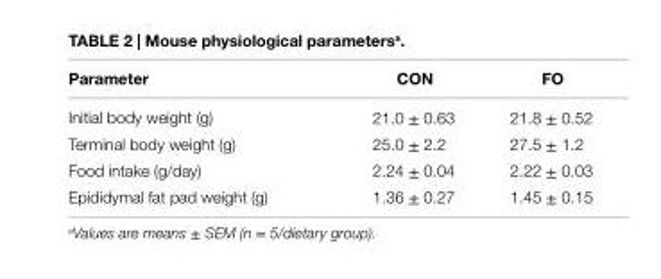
<table><thead><tr><td>Parameter</td><td>cOn</td><td>FO</td></tr></thead><tbody><tr><td>Initial body weight (g)</td><td>21.0 ± 0.63</td><td>21.8 ± 0.52</td></tr><tr><td>Terminal body weight (g)</td><td>25.0 ± 2.2</td><td>27.5 ± 1.2</td></tr><tr><td>Food intake (g/day)</td><td>2.24 ± 0.04</td><td>2.22 ± 0.03</td></tr><tr><td>Epididymal fat pad weight (g)</td><td>1.36 ± 0.27</td><td>1.45 ± 0.15</td></tr></tbody></table>